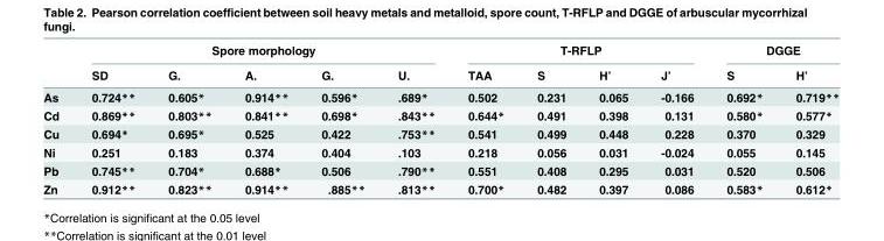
<table><thead><tr><td rowspan="2"></td><td colspan="5">Spore morphology</td><td colspan="4">T-RFLP</td><td colspan="2">DGGE</td></tr><tr><td>SD</td><td>G.</td><td>A.</td><td>G.</td><td>U.</td><td>TAA</td><td>S</td><td>H’</td><td>J’</td><td>S</td><td>H’</td></tr></thead><tbody><tr><td>As</td><td>0.724**</td><td>0.605*</td><td>0.914**</td><td>0.596*</td><td>.689*</td><td>0.502</td><td>0.231</td><td>0.065</td><td>-0.166</td><td>0.692*</td><td>0.719**</td></tr><tr><td>Cd</td><td>0.869**</td><td>0.803**</td><td>0.841**</td><td>0.698*</td><td>.843**</td><td>0.644*</td><td>0.491</td><td>0.398</td><td>0.131</td><td>0.580*</td><td>0.577*</td></tr><tr><td>Cu</td><td>0.694*</td><td>0.695*</td><td>0.525</td><td>0.422</td><td>.753**</td><td>0.541</td><td>0.499</td><td>0.448</td><td>0.228</td><td>0.370</td><td>0.329</td></tr><tr><td>Ni</td><td>0.251</td><td>0.183</td><td>0.374</td><td>0.404</td><td>.103</td><td>0.218</td><td>0.056</td><td>0.031</td><td>-0.024</td><td>0.055</td><td>0.145</td></tr><tr><td>Pb</td><td>0.745**</td><td>0.704*</td><td>0.688*</td><td>0.506</td><td>.790**</td><td>0.551</td><td>0.408</td><td>0.295</td><td>0.031</td><td>0.520</td><td>0.506</td></tr><tr><td>Zn</td><td>0.912**</td><td>0.823**</td><td>0.914**</td><td>.885**</td><td>.813**</td><td>0.700*</td><td>0.482</td><td>0.397</td><td>0.086</td><td>0.583*</td><td>0.612*</td></tr></tbody></table>